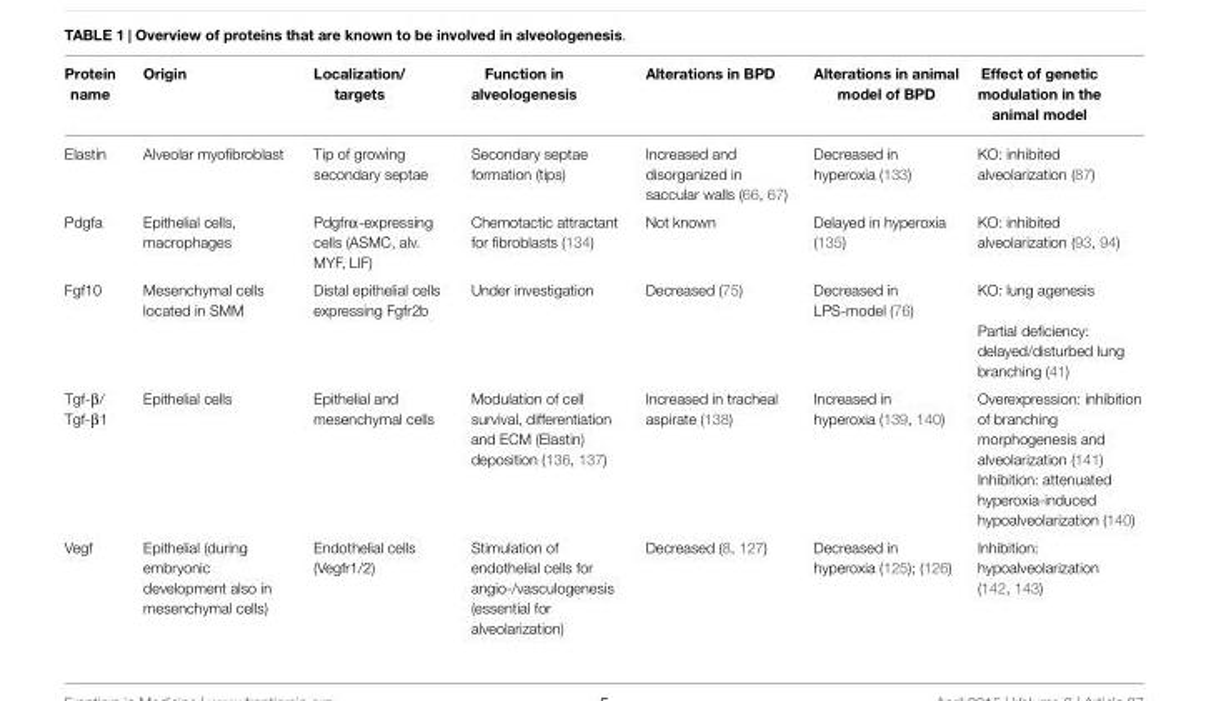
<table><thead><tr><td>Protein name</td><td>Origin</td><td>Localization/ targets</td><td>Function in alveologenesis</td><td>Alterations in BPD</td><td>Alterations in animal model of BPD</td><td>Effect of genetic modulation in the animal model</td></tr></thead><tbody><tr><td>Elastin</td><td>Alveolar myofibroblast</td><td>Tip of growing secondary septae</td><td>Secondary septae formation (tips)</td><td>Increased and disorganized in saccular walls (66, 67)</td><td>Decreased in hyperoxia (133)</td><td>KO: inhibited alveolarization (87)</td></tr><tr><td>Pdgfa</td><td>Epithelial cells, macrophages</td><td>Pdgfrα-expressing cells (ASMC, alv. MYF, LIF)</td><td>Chemotactic attractant for fibroblasts (134)</td><td>Not known</td><td>Delayed in hyperoxia (135)</td><td>KO: inhibited alveolarization (93, 94)</td></tr><tr><td rowspan="2">Fgf10</td><td>Mesenchymal cells located in SMM</td><td>Distal epithelial cells expressing Fgfr2b</td><td>Under investigation</td><td>Decreased (75)</td><td>Decreased in LPS-model (76)</td><td>KO: lung agenesis</td></tr><tr><td></td><td></td><td></td><td></td><td></td><td>Partial deficiency: delayed/disturbed lung branching (41)</td></tr><tr><td rowspan="2">Tgf-β/ Tgf-β1</td><td>Epithelial cells</td><td>Epithelial and mesenchymal cells</td><td>Modulation of cell survival, differentiation and ECM (Elastin) deposition (136, 137)</td><td>Increased in tracheal aspirate (138)</td><td>Increased in hyperoxia (139, 140)</td><td>Overexpression: inhibition of branching morphogenesis and alveolarization (141)</td></tr><tr><td></td><td></td><td></td><td></td><td></td><td>Inhibition: attenuated hyperoxia-induced hypoalveolarization (140)</td></tr><tr><td>Vegf</td><td>Epithelial (during embryonic development also in mesenchymal cells)</td><td>Endothelial cells (Vegfr1/2)</td><td>Stimulation of endothelial cells for angio-/vasculogenesis (essential for alveolarization)</td><td>Decreased (8, 127)</td><td>Decreased in hyperoxia (125); (126)</td><td>Inhibition: hypoalveolarization (142, 143)</td></tr></tbody></table>